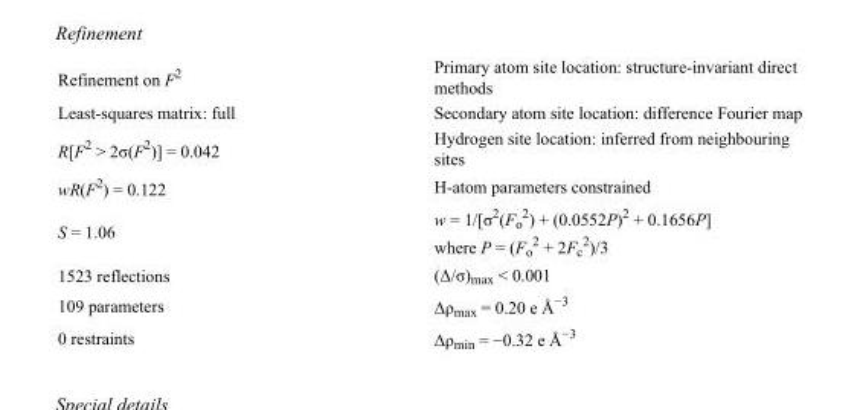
<table><tbody><tr><td>Refinement on F<sup>2</sup></td><td>Primary atom site location: structure-invariant direct methods</td></tr><tr><td>Least-squares matrix: full</td><td>Secondary atom site location: difference Fourier map</td></tr><tr><td>R[F<sup>2</sup> &gt; 2σ(F<sup>2</sup>)] = 0.042</td><td>Hydrogen site location: inferred from neighbouring sites</td></tr><tr><td>wR(F<sup>2</sup>) = 0.122</td><td>H-atom parameters constrained</td></tr><tr><td>S = 1.06</td><td>w = 1/[σ<sup>2</sup>(F<sub>o</sub> <sup>2</sup>) + (0.0552P)<sup>2</sup> + 0.1656P] where P = (F<sub>o</sub> <sup>2</sup> + 2F<sub>c</sub> <sup>2</sup>)/3</td></tr><tr><td>1523 reflections</td><td>(Δ/σ)<sub>max</sub> &lt; 0.001</td></tr><tr><td>109 parameters</td><td>Δρ<sub>max</sub> = 0.20 e Å<sup>−3</sup></td></tr><tr><td>0 restraints</td><td>Δρ<sub>min</sub> = −0.32 e Å<sup>−3</sup></td></tr></tbody></table>